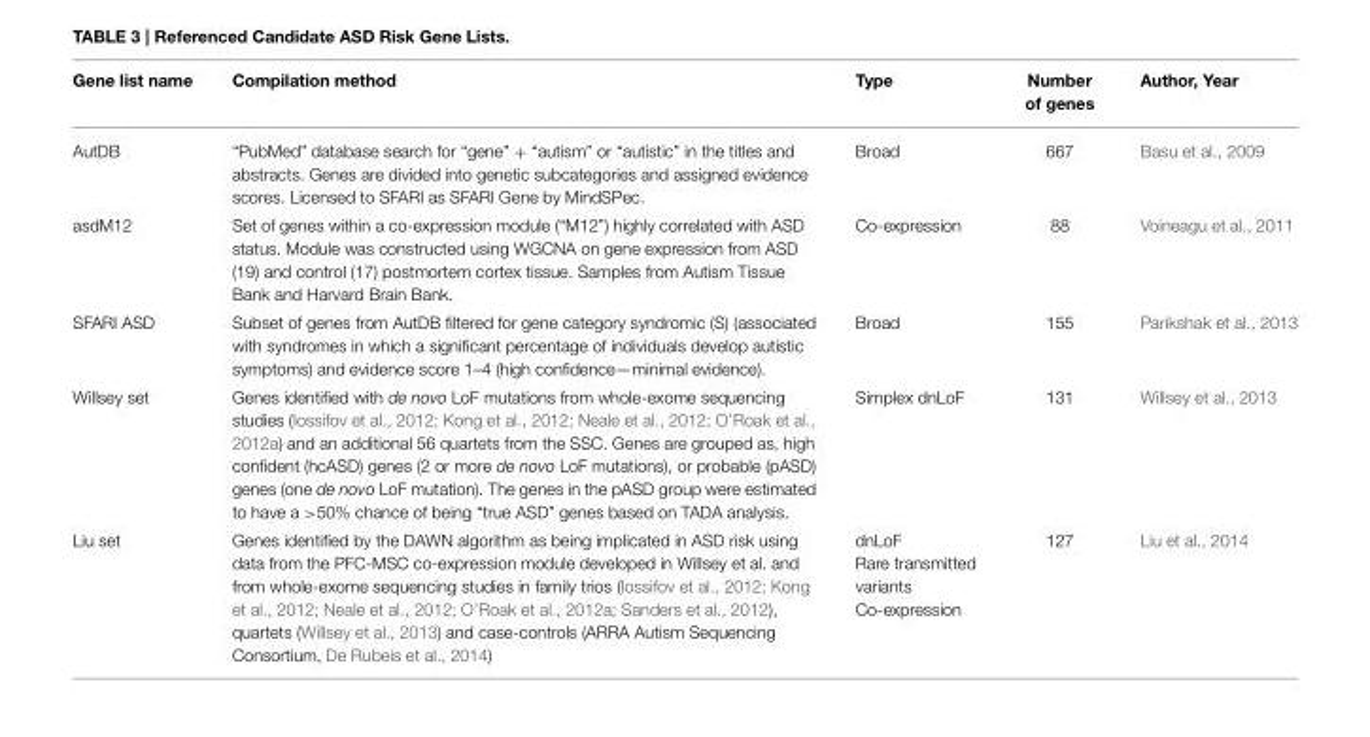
<table><thead><tr><td>Gene list name</td><td>Compilation method</td><td>Type</td><td>Number of genes</td><td>Author, Year</td></tr></thead><tbody><tr><td>AutDB</td><td>“PubMed” database search for “gene” + “autism” or “autistic” in the titles and abstracts. Genes are divided into genetic subcategories and assigned evidence scores. Licensed to SFARI as SFARI Gene by MindSPec.</td><td>Broad</td><td>667</td><td>Basu et al., 2009</td></tr><tr><td>asdM12</td><td>Set of genes within a co-expression module (“M12”) highly correlated with ASD status. Module was constructed using WGCNA on gene expression from ASD (19) and control (17) postmortem cortex tissue. Samples from Autism Tissue Bank and Harvard Brain Bank.</td><td>Co-expression</td><td>88</td><td>Voineagu et al., 2011</td></tr><tr><td>SFARI ASD</td><td>Subset of genes from AutDB filtered for gene category syndromic (S) (associated with syndromes in which a significant percentage of individuals develop autistic symptoms) and evidence score 1–4 (high confidence—minimal evidence).</td><td>Broad</td><td>155</td><td>Parikshak et al., 2013</td></tr><tr><td>Willsey set</td><td>Genes identified with de novo LoF mutations from whole-exome sequencing studies (Iossifov et al., 2012; Kong et al., 2012; Neale et al., 2012; O’Roak et al., 2012a) and an additional 56 quartets from the SSC. Genes are grouped as, high confident (hcASD) genes (2 or more de novo LoF mutations), or probable (pASD) genes (one de novo LoF mutation). The genes in the pASD group were estimated to have a &gt;50% chance of being “true ASD” genes based on TADA analysis.</td><td>Simplex dnLoF</td><td>131</td><td>Willsey et al., 2013</td></tr><tr><td>Liu set</td><td>Genes identified by the DAWN algorithm as being implicated in ASD risk using data from the PFC-MSC co-expression module developed in Willsey et al. and from whole-exome sequencing studies in family trios (Iossifov et al., 2012; Kong et al., 2012; Neale et al., 2012; O’Roak et al., 2012a; Sanders et al., 2012), quartets (Willsey et al., 2013) and case-controls (ARRA Autism Sequencing Consortium, De Rubeis et al., 2014)</td><td>dnLoF Rare transmitted variants Co-expression</td><td>127</td><td>Liu et al., 2014</td></tr></tbody></table>